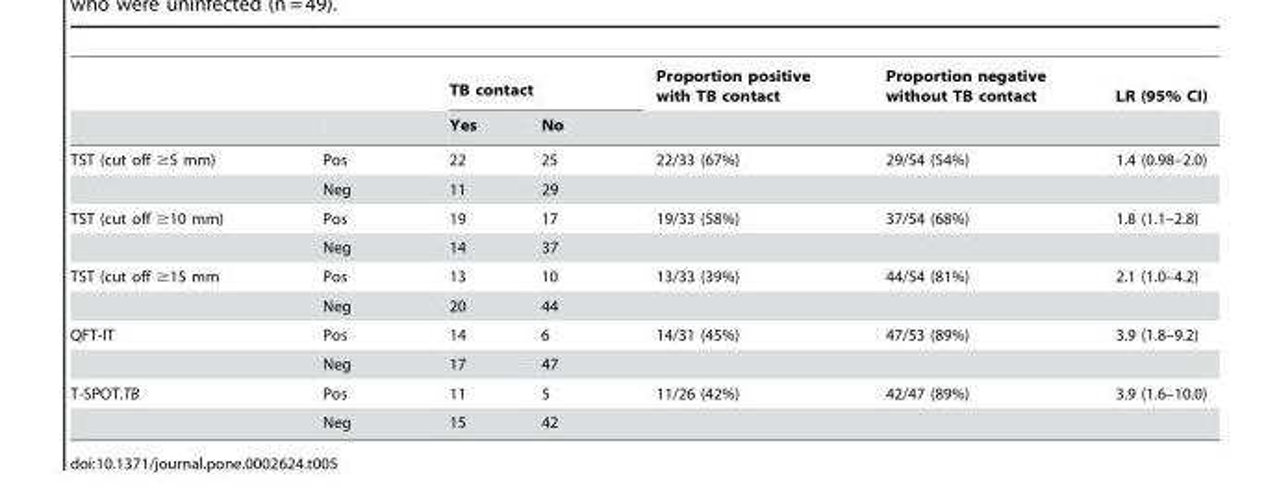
<table><thead><tr><td rowspan="2"></td><td rowspan="2"></td><td colspan="2">TB contact</td><td rowspan="2">Proportion positive with TB contact</td><td rowspan="2">Proportion negative without TB contact</td><td rowspan="2">LR (95% CI)</td></tr><tr><td>Yes</td><td>No</td></tr></thead><tbody><tr><td rowspan="2">TST (cut off ≥5 mm)</td><td>Pos</td><td>22</td><td>25</td><td>22/33 (67%)</td><td>29/54 (54%)</td><td>1.4 (0.98–2.0)</td></tr><tr><td>Neg</td><td>11</td><td>29</td><td></td><td></td><td></td></tr><tr><td rowspan="2">TST (cut off ≥10 mm)</td><td>Pos</td><td>19</td><td>17</td><td>19/33 (58%)</td><td>37/54 (68%)</td><td>1.8 (1.1–2.8)</td></tr><tr><td>Neg</td><td>14</td><td>37</td><td></td><td></td><td></td></tr><tr><td rowspan="2">TST (cut off ≥15 mm</td><td>Pos</td><td>13</td><td>10</td><td>13/33 (39%)</td><td>44/54 (81%)</td><td>2.1 (1.0–4.2)</td></tr><tr><td>Neg</td><td>20</td><td>44</td><td></td><td></td><td></td></tr><tr><td rowspan="2">QFT-IT</td><td>Pos</td><td>14</td><td>6</td><td>14/31 (45%)</td><td>47/53 (89%)</td><td>3.9 (1.8–9.2)</td></tr><tr><td>Neg</td><td>17</td><td>47</td><td></td><td></td><td></td></tr><tr><td rowspan="2">T-SPOT.TB</td><td>Pos</td><td>11</td><td>5</td><td>11/26 (42%)</td><td>42/47 (89%)</td><td>3.9 (1.6–10.0)</td></tr><tr><td>Neg</td><td>15</td><td>42</td><td></td><td></td><td></td></tr></tbody></table>